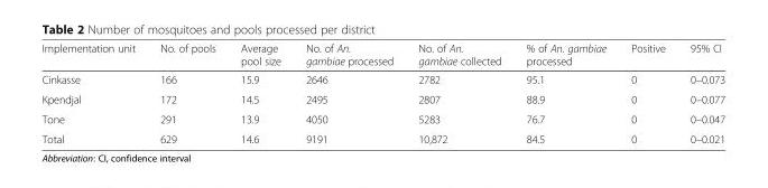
<table><thead><tr><td>Implementation unit</td><td>No. of pools</td><td>Average pool size</td><td>No. of An. gambiae processed</td><td>No. of An. gambiae collected</td><td>% of An. gambiae processed</td><td>Positive</td><td>95% CI</td></tr></thead><tbody><tr><td>Cinkasse</td><td>166</td><td>15.9</td><td>2646</td><td>2782</td><td>95.1</td><td>0</td><td>0–0.073</td></tr><tr><td>Kpendjal</td><td>172</td><td>14.5</td><td>2495</td><td>2807</td><td>88.9</td><td>0</td><td>0–0.077</td></tr><tr><td>Tone</td><td>291</td><td>13.9</td><td>4050</td><td>5283</td><td>76.7</td><td>0</td><td>0–0.047</td></tr><tr><td>Total</td><td>629</td><td>14.6</td><td>9191</td><td>10,872</td><td>84.5</td><td>0</td><td>0–0.021</td></tr></tbody></table>